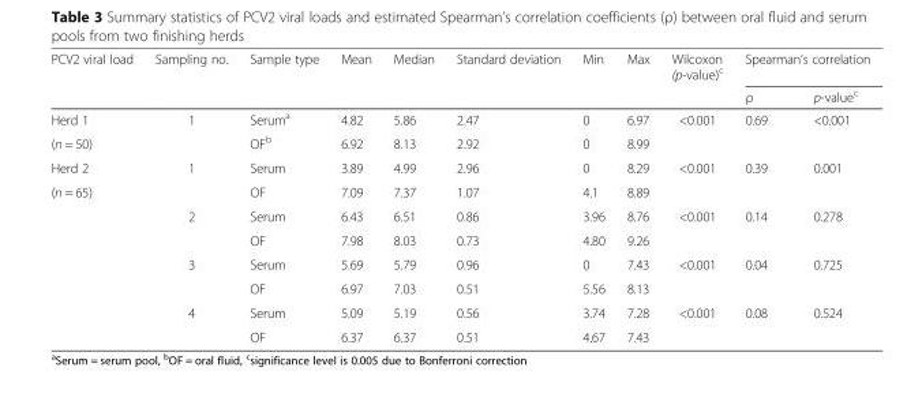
<table><thead><tr><td rowspan="2">PCV2 viral load</td><td rowspan="2">Sampling no.</td><td rowspan="2">Sample type</td><td rowspan="2">Mean</td><td rowspan="2">Median</td><td rowspan="2">Standard deviation</td><td rowspan="2">Min</td><td rowspan="2">Max</td><td rowspan="2">Wilcoxon (p-value)<sup>c</sup></td><td colspan="2">Spearman’s correlation</td></tr><tr><td>ρ</td><td>p-value<sup>c</sup></td></tr></thead><tbody><tr><td>Herd 1</td><td>1</td><td>Serum<sup>a</sup></td><td>4.82</td><td>5.86</td><td>2.47</td><td>0</td><td>6.97</td><td>&lt;0.001</td><td>0.69</td><td>&lt;0.001</td></tr><tr><td>(n = 50)</td><td></td><td>OF<sup>b</sup></td><td>6.92</td><td>8.13</td><td>2.92</td><td>0</td><td>8.99</td><td></td><td></td><td></td></tr><tr><td>Herd 2</td><td>1</td><td>Serum</td><td>3.89</td><td>4.99</td><td>2.96</td><td>0</td><td>8.29</td><td>&lt;0.001</td><td>0.39</td><td>0.001</td></tr><tr><td rowspan="7">(n = 65)</td><td></td><td>OF</td><td>7.09</td><td>7.37</td><td>1.07</td><td>4.1</td><td>8.89</td><td></td><td></td><td></td></tr><tr><td>2</td><td>Serum</td><td>6.43</td><td>6.51</td><td>0.86</td><td>3.96</td><td>8.76</td><td>&lt;0.001</td><td>0.14</td><td>0.278</td></tr><tr><td></td><td>OF</td><td>7.98</td><td>8.03</td><td>0.73</td><td>4.80</td><td>9.26</td><td></td><td></td><td></td></tr><tr><td>3</td><td>Serum</td><td>5.69</td><td>5.79</td><td>0.96</td><td>0</td><td>7.43</td><td>&lt;0.001</td><td>0.04</td><td>0.725</td></tr><tr><td></td><td>OF</td><td>6.97</td><td>7.03</td><td>0.51</td><td>5.56</td><td>8.13</td><td></td><td></td><td></td></tr><tr><td>4</td><td>Serum</td><td>5.09</td><td>5.19</td><td>0.56</td><td>3.74</td><td>7.28</td><td>&lt;0.001</td><td>0.08</td><td>0.524</td></tr><tr><td></td><td>OF</td><td>6.37</td><td>6.37</td><td>0.51</td><td>4.67</td><td>7.43</td><td></td><td></td><td></td></tr></tbody></table>